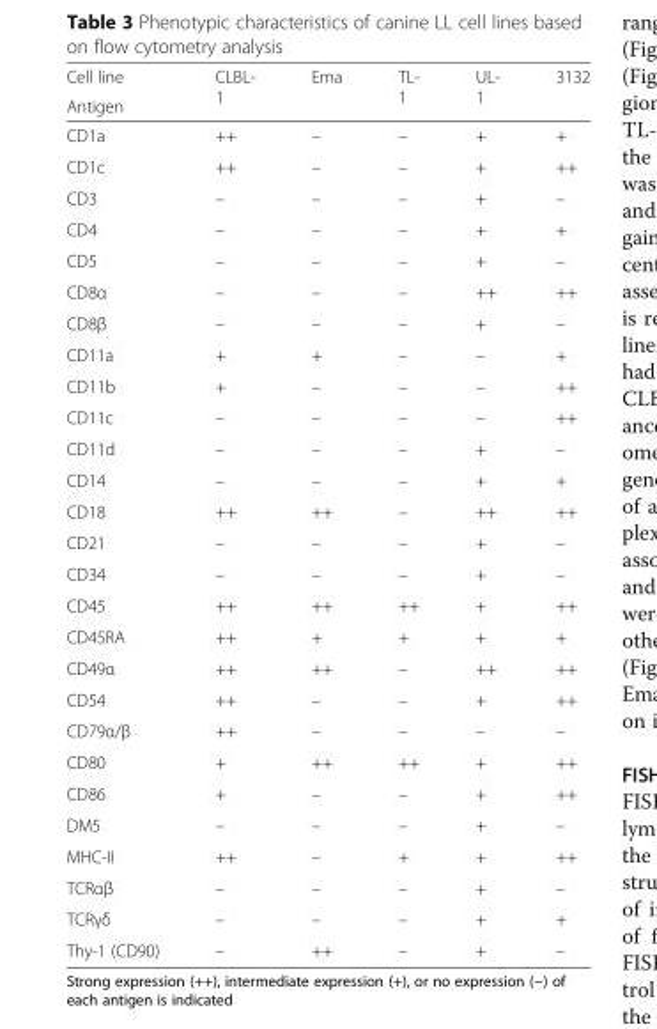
<table><thead><tr><td rowspan="2">Cell line Antigen</td><td rowspan="2">CLBL- 1</td><td rowspan="2">Ema</td><td rowspan="2">TL- 1</td><td rowspan="2">UL- 1</td><td rowspan="2">3132</td></tr><tr></tr></thead><tbody><tr><td>CD1a</td><td>++</td><td>–</td><td>–</td><td>+</td><td>+</td></tr><tr><td>CD1c</td><td>++</td><td>–</td><td>–</td><td>+</td><td>++</td></tr><tr><td>CD3</td><td>–</td><td>–</td><td>–</td><td>+</td><td>–</td></tr><tr><td>CD4</td><td>–</td><td>–</td><td>–</td><td>+</td><td>+</td></tr><tr><td>CD5</td><td>–</td><td>–</td><td>–</td><td>+</td><td>–</td></tr><tr><td>CD8α</td><td>–</td><td>–</td><td>–</td><td>++</td><td>++</td></tr><tr><td>CD8β</td><td>–</td><td>–</td><td>–</td><td>+</td><td>–</td></tr><tr><td>CD11a</td><td>+</td><td>+</td><td>–</td><td>–</td><td>+</td></tr><tr><td>CD11b</td><td>+</td><td>–</td><td>–</td><td>–</td><td>++</td></tr><tr><td>CD11c</td><td>–</td><td>–</td><td>–</td><td>–</td><td>++</td></tr><tr><td>CD11d</td><td>–</td><td>–</td><td>–</td><td>+</td><td>–</td></tr><tr><td>CD14</td><td>–</td><td>–</td><td>–</td><td>+</td><td>+</td></tr><tr><td>CD18</td><td>++</td><td>++</td><td>–</td><td>++</td><td>++</td></tr><tr><td>CD21</td><td>–</td><td>–</td><td>–</td><td>+</td><td>–</td></tr><tr><td>CD34</td><td>–</td><td>–</td><td>–</td><td>+</td><td>–</td></tr><tr><td>CD45</td><td>++</td><td>++</td><td>++</td><td>+</td><td>++</td></tr><tr><td>CD45RA</td><td>++</td><td>+</td><td>+</td><td>+</td><td>+</td></tr><tr><td>CD49α</td><td>++</td><td>++</td><td>–</td><td>++</td><td>++</td></tr><tr><td>CD54</td><td>++</td><td>–</td><td>–</td><td>+</td><td>++</td></tr><tr><td>CD79α/β</td><td>++</td><td>–</td><td>–</td><td>–</td><td>–</td></tr><tr><td>CD80</td><td>+</td><td>++</td><td>++</td><td>+</td><td>++</td></tr><tr><td>CD86</td><td>+</td><td>–</td><td>–</td><td>+</td><td>++</td></tr><tr><td>DM5</td><td>–</td><td>–</td><td>–</td><td>+</td><td>–</td></tr><tr><td>MHC-II</td><td>++</td><td>–</td><td>+</td><td>+</td><td>++</td></tr><tr><td>TCRαβ</td><td>–</td><td>–</td><td>–</td><td>+</td><td>–</td></tr><tr><td>TCRγδ</td><td>–</td><td>–</td><td>–</td><td>+</td><td>+</td></tr><tr><td>Thy-1 (CD90)</td><td>–</td><td>++</td><td>–</td><td>+</td><td>–</td></tr></tbody></table>